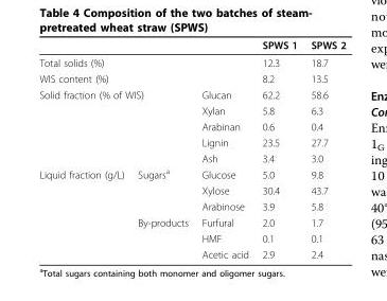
<table><thead><tr><td></td><td></td><td></td><td>SPWS 1</td><td>SPWS 2</td></tr></thead><tbody><tr><td colspan="2">Total solids (%)</td><td></td><td>12.3</td><td>18.7</td></tr><tr><td colspan="2">WIS content (%)</td><td></td><td>8.2</td><td>13.5</td></tr><tr><td colspan="2">Solid fraction (% of WIS)</td><td>Glucan</td><td>62.2</td><td>58.6</td></tr><tr><td></td><td></td><td>Xylan</td><td>5.8</td><td>6.3</td></tr><tr><td></td><td></td><td>Arabinan</td><td>0.6</td><td>0.4</td></tr><tr><td></td><td></td><td>Lignin</td><td>23.5</td><td>27.7</td></tr><tr><td></td><td></td><td>Ash</td><td>3.4</td><td>3.0</td></tr><tr><td rowspan="6">Liquid fraction (g/L)</td><td>Sugars<sup>a</sup></td><td>Glucose</td><td>5.0</td><td>9.8</td></tr><tr><td></td><td>Xylose</td><td>30.4</td><td>43.7</td></tr><tr><td></td><td>Arabinose</td><td>3.9</td><td>5.8</td></tr><tr><td>By-products</td><td>Furfural</td><td>2.0</td><td>1.7</td></tr><tr><td></td><td>HMF</td><td>0.1</td><td>0.1</td></tr><tr><td></td><td>Acetic acid</td><td>2.9</td><td>2.4</td></tr></tbody></table>